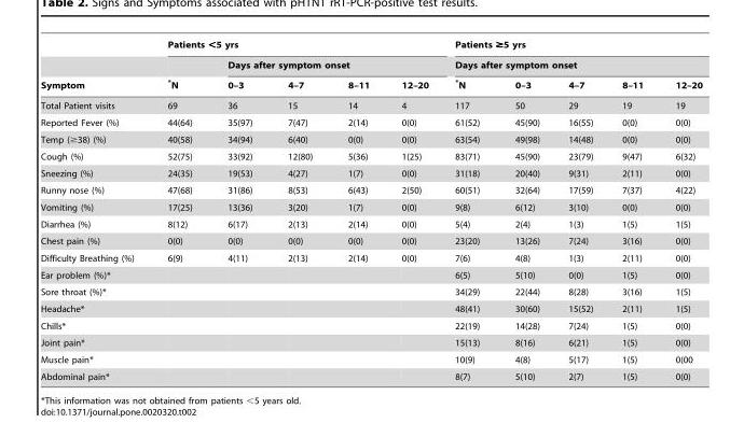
<table><thead><tr><td rowspan="3">Symptom</td><td colspan="5">Patients &lt;5 yrs</td><td rowspan="2" colspan="5">Patients ≥5 yrs Days after symptom onset</td></tr><tr><td rowspan="2">*N</td><td colspan="4">Days after symptom onset</td></tr><tr><td>0–3</td><td>4–7</td><td>8–11</td><td>12–20</td><td>*N</td><td>0–3</td><td>4–7</td><td>8–11</td><td>12–20</td></tr></thead><tbody><tr><td>Total Patient visits</td><td>69</td><td>36</td><td>15</td><td>14</td><td>4</td><td>117</td><td>50</td><td>29</td><td>19</td><td>19</td></tr><tr><td>Reported Fever (%)</td><td>44(64)</td><td>35(97)</td><td>7(47)</td><td>2(14)</td><td>0(0)</td><td>61(52)</td><td>45(90)</td><td>16(55)</td><td>0(0)</td><td>0(0)</td></tr><tr><td>Temp (≥38) (%)</td><td>40(58)</td><td>34(94)</td><td>6(40)</td><td>0(0)</td><td>0(0)</td><td>63(54)</td><td>49(98)</td><td>14(48)</td><td>0(0)</td><td>0(0)</td></tr><tr><td>Cough (%)</td><td>52(75)</td><td>33(92)</td><td>12(80)</td><td>5(36)</td><td>1(25)</td><td>83(71)</td><td>45(90)</td><td>23(79)</td><td>9(47)</td><td>6(32)</td></tr><tr><td>Sneezing (%)</td><td>24(35)</td><td>19(53)</td><td>4(27)</td><td>1(7)</td><td>0(0)</td><td>31(18)</td><td>20(40)</td><td>9(31)</td><td>2(11)</td><td>0(0)</td></tr><tr><td>Runny nose (%)</td><td>47(68)</td><td>31(86)</td><td>8(53)</td><td>6(43)</td><td>2(50)</td><td>60(51)</td><td>32(64)</td><td>17(59)</td><td>7(37)</td><td>4(22)</td></tr><tr><td>Vomiting (%)</td><td>17(25)</td><td>13(36)</td><td>3(20)</td><td>1(7)</td><td>0(0)</td><td>9(8)</td><td>6(12)</td><td>3(10)</td><td>0(0)</td><td>0(0)</td></tr><tr><td>Diarrhea (%)</td><td>8(12)</td><td>6(17)</td><td>2(13)</td><td>2(14)</td><td>0(0)</td><td>5(4)</td><td>2(4)</td><td>1(3)</td><td>1(5)</td><td>1(5)</td></tr><tr><td>Chest pain (%)</td><td>0(0)</td><td>0(0)</td><td>0(0)</td><td>0(0)</td><td>0(0)</td><td>23(20)</td><td>13(26)</td><td>7(24)</td><td>3(16)</td><td>0(0)</td></tr><tr><td>Difficulty Breathing (%)</td><td>6(9)</td><td>4(11)</td><td>2(13)</td><td>2(14)</td><td>0(0)</td><td>7(6)</td><td>4(8)</td><td>1(3)</td><td>2(11)</td><td>0(0)</td></tr><tr><td>Ear problem (%)*</td><td></td><td></td><td></td><td></td><td></td><td>6(5)</td><td>5(10)</td><td>0(0)</td><td>1(5)</td><td>0(0)</td></tr><tr><td>Sore throat (%)*</td><td></td><td></td><td></td><td></td><td></td><td>34(29)</td><td>22(44)</td><td>8(28)</td><td>3(16)</td><td>1(5)</td></tr><tr><td>Headache*</td><td></td><td></td><td></td><td></td><td></td><td>48(41)</td><td>30(60)</td><td>15(52)</td><td>2(11)</td><td>1(5)</td></tr><tr><td>Chills*</td><td></td><td></td><td></td><td></td><td></td><td>22(19)</td><td>14(28)</td><td>7(24)</td><td>1(5)</td><td>0(0)</td></tr><tr><td>Joint pain*</td><td></td><td></td><td></td><td></td><td></td><td>15(13)</td><td>8(16)</td><td>6(21)</td><td>1(5)</td><td>0(0)</td></tr><tr><td>Muscle pain*</td><td></td><td></td><td></td><td></td><td></td><td>10(9)</td><td>4(8)</td><td>5(17)</td><td>1(5)</td><td>0(00</td></tr><tr><td>Abdominal pain*</td><td></td><td></td><td></td><td></td><td></td><td>8(7)</td><td>5(10)</td><td>2(7)</td><td>1(5)</td><td>0(0)</td></tr></tbody></table>